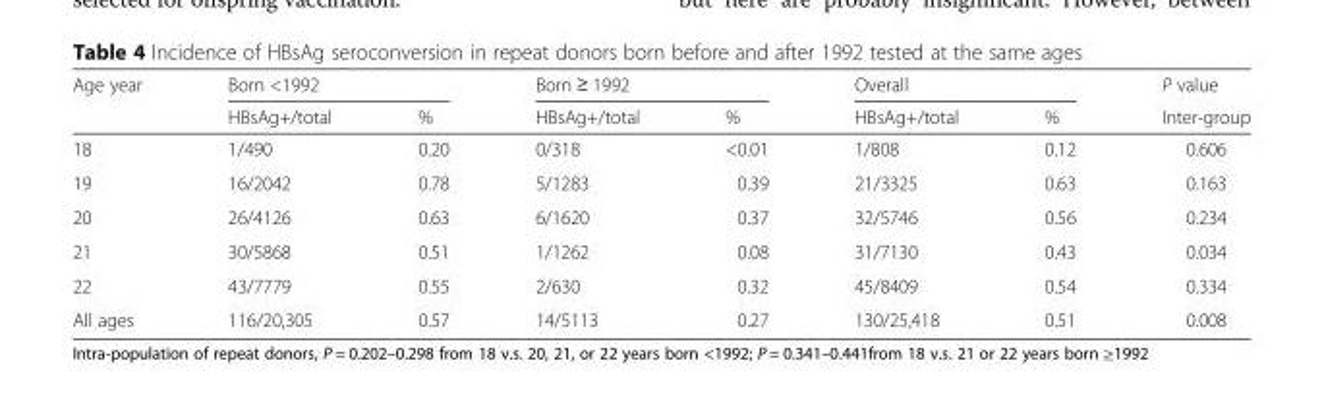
<table><thead><tr><td rowspan="2">Age year</td><td colspan="2">Born &lt;1992</td><td colspan="2">Born ≥ 1992</td><td colspan="2">Overall</td><td rowspan="2">P value Inter-group</td></tr><tr><td>HBsAg+/total</td><td>%</td><td>HBsAg+/total</td><td>%</td><td>HBsAg+/total</td><td>%</td></tr></thead><tbody><tr><td>18</td><td>1/490</td><td>0.20</td><td>0/318</td><td>&lt;0.01</td><td>1/808</td><td>0.12</td><td>0.606</td></tr><tr><td>19</td><td>16/2042</td><td>0.78</td><td>5/1283</td><td>0.39</td><td>21/3325</td><td>0.63</td><td>0.163</td></tr><tr><td>20</td><td>26/4126</td><td>0.63</td><td>6/1620</td><td>0.37</td><td>32/5746</td><td>0.56</td><td>0.234</td></tr><tr><td>21</td><td>30/5868</td><td>0.51</td><td>1/1262</td><td>0.08</td><td>31/7130</td><td>0.43</td><td>0.034</td></tr><tr><td>22</td><td>43/7779</td><td>0.55</td><td>2/630</td><td>0.32</td><td>45/8409</td><td>0.54</td><td>0.334</td></tr><tr><td>All ages</td><td>116/20,305</td><td>0.57</td><td>14/5113</td><td>0.27</td><td>130/25,418</td><td>0.51</td><td>0.008</td></tr></tbody></table>